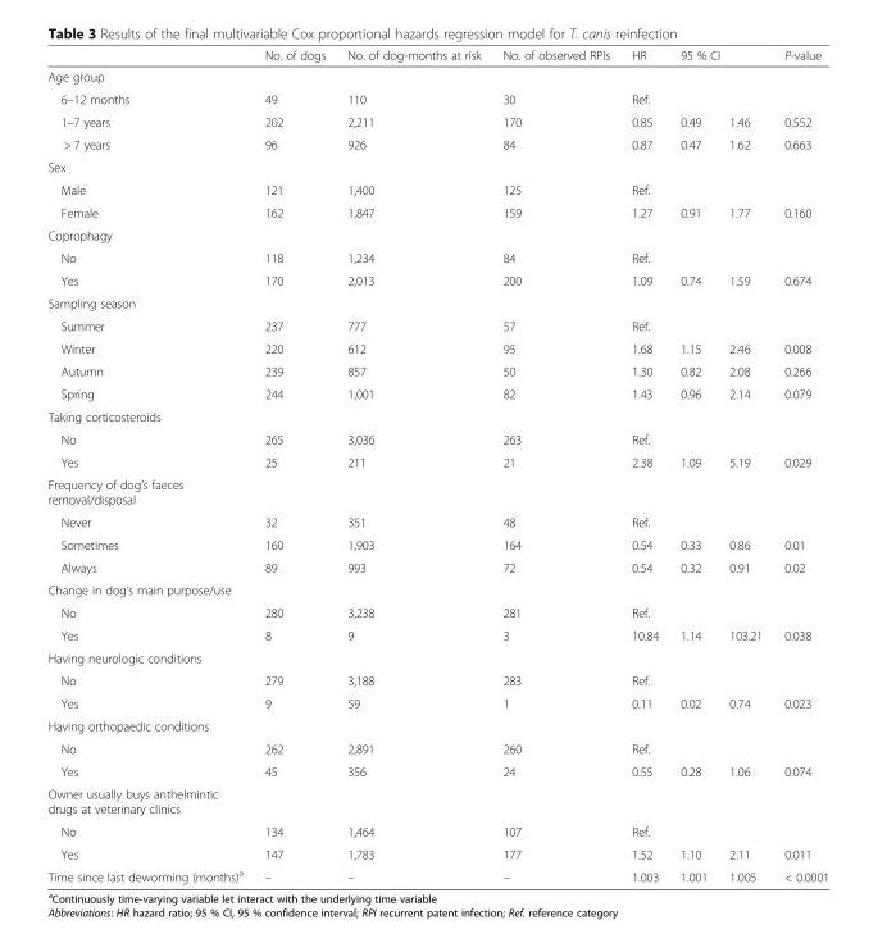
<table><thead><tr><td></td><td>No. of dogs</td><td>No. of dog-months at risk</td><td>No. of observed RPIs</td><td>HR</td><td colspan="2">95 % CI</td><td>P-value</td></tr><tr><td colspan="8">Age group</td></tr><tr><td>6–12 months</td><td>49</td><td>110</td><td>30</td><td>Ref.</td><td></td><td></td><td></td></tr></thead><tbody><tr><td>1–7 years</td><td>202</td><td>2,211</td><td>170</td><td>0.85</td><td>0.49</td><td>1.46</td><td>0.552</td></tr><tr><td>&gt; 7 years</td><td>96</td><td>926</td><td>84</td><td>0.87</td><td>0.47</td><td>1.62</td><td>0.663</td></tr><tr><td colspan="8">Sex</td></tr><tr><td>Male</td><td>121</td><td>1,400</td><td>125</td><td>Ref.</td><td></td><td></td><td></td></tr><tr><td>Female</td><td>162</td><td>1,847</td><td>159</td><td>1.27</td><td>0.91</td><td>1.77</td><td>0.160</td></tr><tr><td colspan="8">Coprophagy</td></tr><tr><td>No</td><td>118</td><td>1,234</td><td>84</td><td>Ref.</td><td></td><td></td><td></td></tr><tr><td>Yes</td><td>170</td><td>2,013</td><td>200</td><td>1.09</td><td>0.74</td><td>1.59</td><td>0.674</td></tr><tr><td colspan="8">Sampling season</td></tr><tr><td>Summer</td><td>237</td><td>777</td><td>57</td><td>Ref.</td><td></td><td></td><td></td></tr><tr><td>Winter</td><td>220</td><td>612</td><td>95</td><td>1.68</td><td>1.15</td><td>2.46</td><td>0.008</td></tr><tr><td>Autumn</td><td>239</td><td>857</td><td>50</td><td>1.30</td><td>0.82</td><td>2.08</td><td>0.266</td></tr><tr><td>Spring</td><td>244</td><td>1,001</td><td>82</td><td>1.43</td><td>0.96</td><td>2.14</td><td>0.079</td></tr><tr><td colspan="8">Taking corticosteroids</td></tr><tr><td>No</td><td>265</td><td>3,036</td><td>263</td><td>Ref.</td><td></td><td></td><td></td></tr><tr><td>Yes</td><td>25</td><td>211</td><td>21</td><td>2.38</td><td>1.09</td><td>5.19</td><td>0.029</td></tr><tr><td colspan="8">Frequency of dog’s faeces removal/disposal</td></tr><tr><td>Never</td><td>32</td><td>351</td><td>48</td><td>Ref.</td><td></td><td></td><td></td></tr><tr><td>Sometimes</td><td>160</td><td>1,903</td><td>164</td><td>0.54</td><td>0.33</td><td>0.86</td><td>0.01</td></tr><tr><td>Always</td><td>89</td><td>993</td><td>72</td><td>0.54</td><td>0.32</td><td>0.91</td><td>0.02</td></tr><tr><td colspan="8">Change in dog’s main purpose/use</td></tr><tr><td>No</td><td>280</td><td>3,238</td><td>281</td><td>Ref.</td><td></td><td></td><td></td></tr><tr><td>Yes</td><td>8</td><td>9</td><td>3</td><td>10.84</td><td>1.14</td><td>103.21</td><td>0.038</td></tr><tr><td colspan="8">Having neurologic conditions</td></tr><tr><td>No</td><td>279</td><td>3,188</td><td>283</td><td>Ref.</td><td></td><td></td><td></td></tr><tr><td>Yes</td><td>9</td><td>59</td><td>1</td><td>0.11</td><td>0.02</td><td>0.74</td><td>0.023</td></tr><tr><td colspan="8">Having orthopaedic conditions</td></tr><tr><td>No</td><td>262</td><td>2,891</td><td>260</td><td>Ref.</td><td></td><td></td><td></td></tr><tr><td>Yes</td><td>45</td><td>356</td><td>24</td><td>0.55</td><td>0.28</td><td>1.06</td><td>0.074</td></tr><tr><td colspan="8">Owner usually buys anthelmintic drugs at veterinary clinics</td></tr><tr><td>No</td><td>134</td><td>1,464</td><td>107</td><td>Ref.</td><td></td><td></td><td></td></tr><tr><td>Yes</td><td>147</td><td>1,783</td><td>177</td><td>1.52</td><td>1.10</td><td>2.11</td><td>0.011</td></tr><tr><td>Time since last deworming (months)<sup>a</sup></td><td>–</td><td>–</td><td>–</td><td>1.003</td><td>1.001</td><td>1.005</td><td>&lt; 0.0001</td></tr></tbody></table>